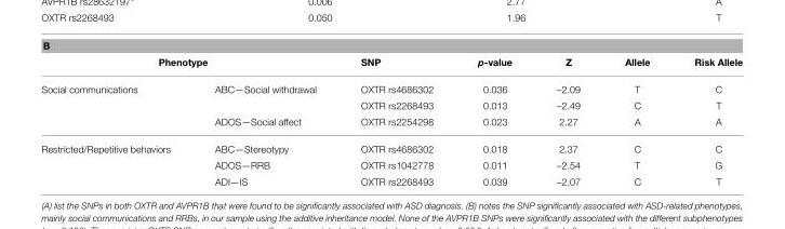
<table><thead><tr><td colspan="7">B</td></tr><tr><td colspan="2">Phenotype</td><td rowspan="2">SNP OXTR rs4686302</td><td rowspan="2">p-value 0.036</td><td rowspan="2">Z –2.09</td><td rowspan="2">Allele T</td><td rowspan="2">Risk Allele C</td></tr><tr><td>Social communications</td><td>ABC—Social withdrawal</td></tr></thead><tbody><tr><td></td><td></td><td>OXTR rs2268493</td><td>0.013</td><td>–2.49</td><td>C</td><td>T</td></tr><tr><td></td><td>ADOS—Social affect</td><td>OXTR rs2254298</td><td>0.023</td><td>2.27</td><td>A</td><td>A</td></tr><tr><td rowspan="3">Restricted/Repetitive behaviors</td><td>ABC—Stereotypy</td><td>OXTR rs4686302</td><td>0.018</td><td>2.37</td><td>C</td><td>C</td></tr><tr><td>ADOS—RRB</td><td>OXTR rs1042778</td><td>0.011</td><td>–2.54</td><td>T</td><td>G</td></tr><tr><td>ADI—IS</td><td>OXTR rs2268493</td><td>0.039</td><td>–2.07</td><td>C</td><td>T</td></tr></tbody></table>